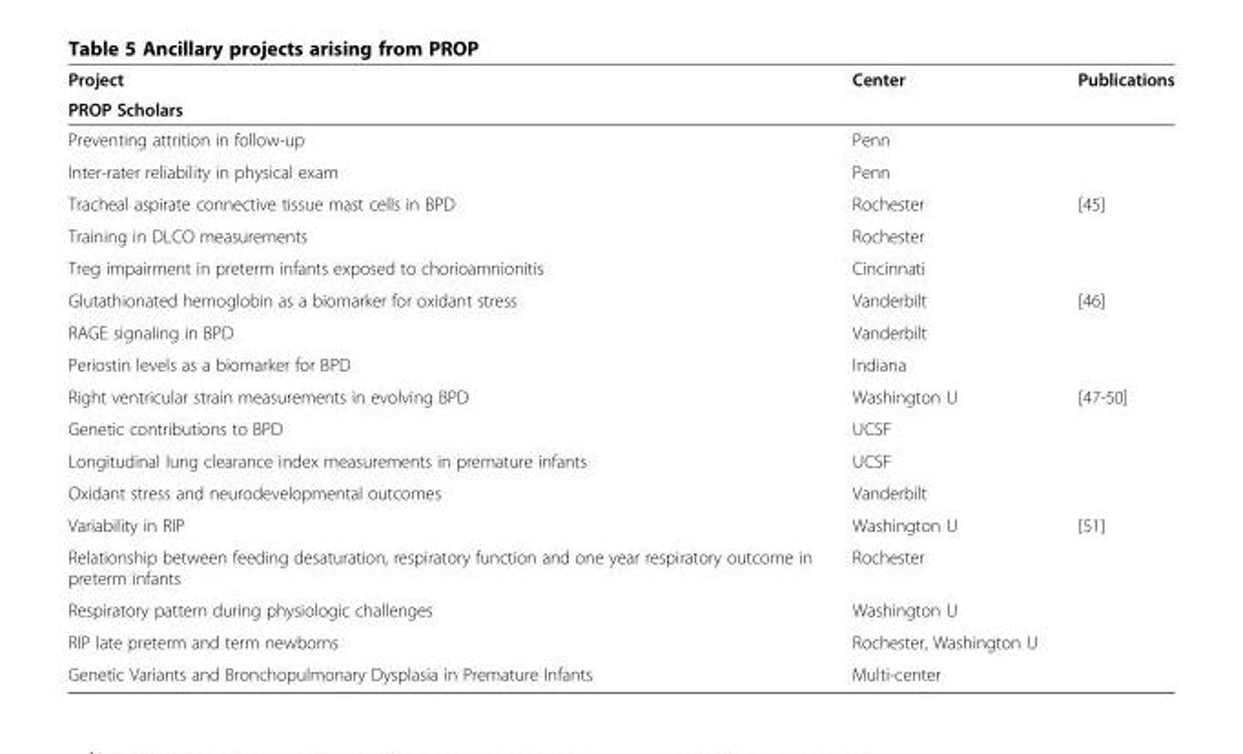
<table><thead><tr><td rowspan="2">Project PROP Scholars</td><td rowspan="2">Center</td><td rowspan="2">Publications</td></tr><tr></tr></thead><tbody><tr><td>Preventing attrition in follow-up</td><td>Penn</td><td></td></tr><tr><td>Inter-rater reliability in physical exam</td><td>Penn</td><td></td></tr><tr><td>Tracheal aspirate connective tissue mast cells in BPD</td><td>Rochester</td><td>[45]</td></tr><tr><td>Training in DLCO measurements</td><td>Rochester</td><td></td></tr><tr><td>Treg impairment in preterm infants exposed to chorioamnionitis</td><td>Cincinnati</td><td></td></tr><tr><td>Glutathionated hemoglobin as a biomarker for oxidant stress</td><td>Vanderbilt</td><td>[46]</td></tr><tr><td>RAGE signaling in BPD</td><td>Vanderbilt</td><td></td></tr><tr><td>Periostin levels as a biomarker for BPD</td><td>Indiana</td><td></td></tr><tr><td>Right ventricular strain measurements in evolving BPD</td><td>Washington U</td><td>[47-50]</td></tr><tr><td>Genetic contributions to BPD</td><td>UCSF</td><td></td></tr><tr><td>Longitudinal lung clearance index measurements in premature infants</td><td>UCSF</td><td></td></tr><tr><td>Oxidant stress and neurodevelopmental outcomes</td><td>Vanderbilt</td><td></td></tr><tr><td>Variability in RIP</td><td>Washington U</td><td>[51]</td></tr><tr><td>Relationship between feeding desaturation, respiratory function and one year respiratory outcome in preterm infants</td><td>Rochester</td><td></td></tr><tr><td>Respiratory pattern during physiologic challenges</td><td>Washington U</td><td></td></tr><tr><td>RIP late preterm and term newborns</td><td>Rochester, Washington U</td><td></td></tr><tr><td>Genetic Variants and Bronchopulmonary Dysplasia in Premature Infants</td><td>Multi-center</td><td></td></tr></tbody></table>